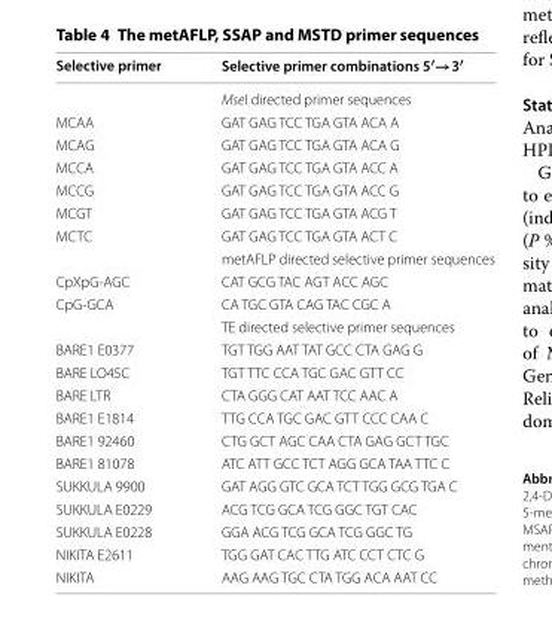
<table><thead><tr><td>Selective primer</td><td>Selective primer combinations 5′→3′</td></tr></thead><tbody><tr><td></td><td>MseI directed primer sequences</td></tr><tr><td>MCAA</td><td>GAT GAG TCC TGA GTA ACA A</td></tr><tr><td>MCAG</td><td>GAT GAG TCC TGA GTA ACA G</td></tr><tr><td>MCCA</td><td>GAT GAG TCC TGA GTA ACC A</td></tr><tr><td>MCCG</td><td>GAT GAG TCC TGA GTA ACC G</td></tr><tr><td>MCGT</td><td>GAT GAG TCC TGA GTA ACG T</td></tr><tr><td rowspan="2">MCTC</td><td>GAT GAG TCC TGA GTA ACT C</td></tr><tr><td>metAFLP directed selective primer sequences</td></tr><tr><td>CpXpG-AGC</td><td>CAT GCG TAC AGT ACC AGC</td></tr><tr><td rowspan="2">CpG-GCA</td><td>CA TGC GTA CAG TAC CGC A</td></tr><tr><td>TE directed selective primer sequences</td></tr><tr><td>BARE1 E0377</td><td>TGT TGG AAT TAT GCC CTA GAG G</td></tr><tr><td>BARE LO45C</td><td>TGT TTC CCA TGC GAC GTT CC</td></tr><tr><td>BARE LTR</td><td>CTA GGG CAT AAT TCC AAC A</td></tr><tr><td>BARE1 E1814</td><td>TTG CCA TGC GAC GTT CCC CAA C</td></tr><tr><td>BARE1 92460</td><td>CTG GCT AGC CAA CTA GAG GCT TGC</td></tr><tr><td>BARE1 81078</td><td>ATC ATT GCC TCT AGG GCA TAA TTC C</td></tr><tr><td>SUKKULA 9900</td><td>GAT AGG GTC GCA TCT TGG GCG TGA C</td></tr><tr><td>SUKKULA E0229</td><td>ACG TCG GCA TCG GGC TGT CAC</td></tr><tr><td>SUKKULA E0228</td><td>GGA ACG TCG GCA TCG GGC TG</td></tr><tr><td>NIKITA E2611</td><td>TGG GAT CAC TTG ATC CCT CTC G</td></tr><tr><td>NIKITA</td><td>AAG AAG TGC CTA TGG ACA AAT CC</td></tr></tbody></table>